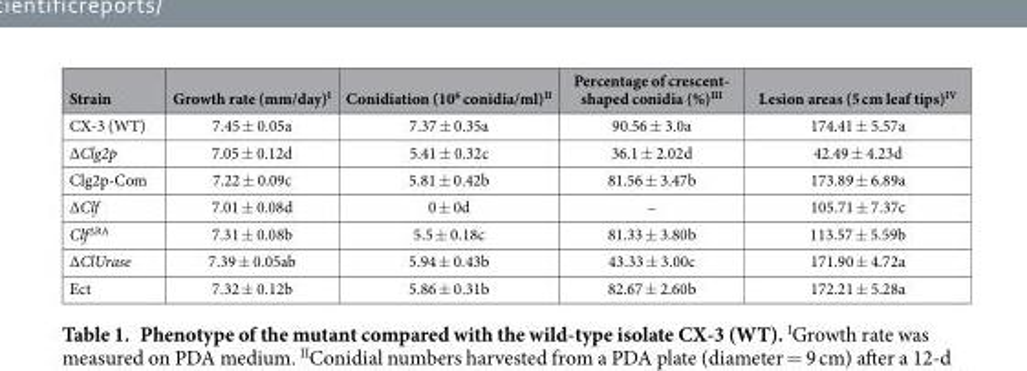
<table><thead><tr><td>Strain</td><td>Growth rate (mm/day)<sup>I</sup></td><td>Conidiation (10<sup>6</sup> conidia/ml)<sup>II</sup></td><td>Percentage of crescent- shaped conidia (%)III</td><td>Lesion areas (5 cm leaf tips)<sup>IV</sup></td></tr></thead><tbody><tr><td>CX-3 (WT)</td><td>7.45 ± 0.05a</td><td>7.37 ± 0.35a</td><td>90.56 ± 3.0a</td><td>174.41 ± 5.57a</td></tr><tr><td>ΔClg2p</td><td>7.05 ± 0.12d</td><td>5.41 ± 0.32c</td><td>36.1 ± 2.02d</td><td>42.49 ± 4.23d</td></tr><tr><td>Clg2p-Com</td><td>7.22 ± 0.09c</td><td>5.81 ± 0.42b</td><td>81.56 ± 3.47b</td><td>173.89 ± 6.89a</td></tr><tr><td>ΔClf</td><td>7.01 ± 0.08d</td><td>0 ± 0d</td><td>–</td><td>105.71 ± 7.37c</td></tr><tr><td>Clf<sup>ΔRA</sup></td><td>7.31 ± 0.08b</td><td>5.5 ± 0.18c</td><td>81.33 ± 3.80b</td><td>113.57 ± 5.59b</td></tr><tr><td>ΔClUrase</td><td>7.39 ± 0.05ab</td><td>5.94 ± 0.43b</td><td>43.33 ± 3.00c</td><td>171.90 ± 4.72a</td></tr><tr><td>Ect</td><td>7.32 ± 0.12b</td><td>5.86 ± 0.31b</td><td>82.67 ± 2.60b</td><td>172.21 ± 5.28a</td></tr></tbody></table>